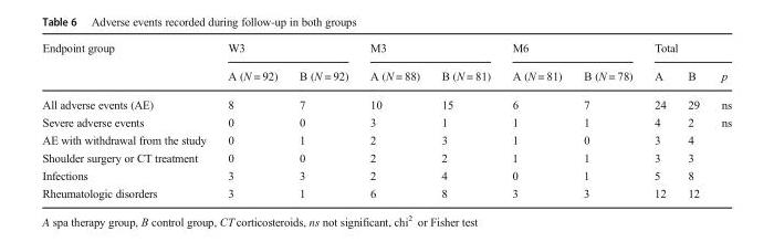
<table><thead><tr><td rowspan="2">Endpoint group</td><td colspan="2">W3</td><td colspan="2">M3</td><td colspan="2">M6</td><td colspan="3">Total</td></tr><tr><td>A (N = 92)</td><td>B (N = 92)</td><td>A (N = 88)</td><td>B (N = 81)</td><td>A (N = 81)</td><td>B (N = 78)</td><td>A</td><td>B</td><td>p</td></tr></thead><tbody><tr><td>All adverse events (AE)</td><td>8</td><td>7</td><td>10</td><td>15</td><td>6</td><td>7</td><td>24</td><td>29</td><td>ns</td></tr><tr><td>Severe adverse events</td><td>0</td><td>0</td><td>3</td><td>1</td><td>1</td><td>1</td><td>4</td><td>2</td><td>ns</td></tr><tr><td>AE with withdrawal from the study</td><td>0</td><td>1</td><td>2</td><td>3</td><td>1</td><td>0</td><td>3</td><td>4</td><td></td></tr><tr><td>Shoulder surgery or CT treatment</td><td>0</td><td>0</td><td>2</td><td>2</td><td>1</td><td>1</td><td>3</td><td>3</td><td></td></tr><tr><td>Infections</td><td>3</td><td>3</td><td>2</td><td>4</td><td>0</td><td>1</td><td>5</td><td>8</td><td></td></tr><tr><td>Rheumatologic disorders</td><td>3</td><td>1</td><td>6</td><td>8</td><td>3</td><td>3</td><td>12</td><td>12</td><td></td></tr></tbody></table>